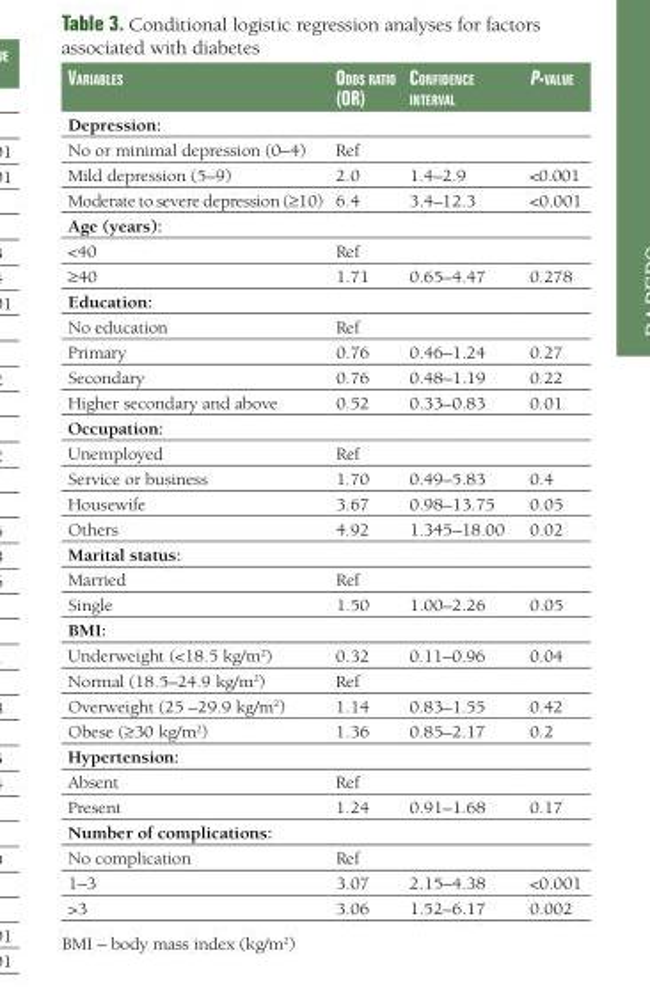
<table><thead><tr><td>Variables</td><td>odds ratio (or)</td><td>ConfidenCe interVal</td><td>P-Value</td></tr></thead><tbody><tr><td colspan="4">Depression:</td></tr><tr><td>No or minimal depression (0–4)</td><td>Ref</td><td></td><td></td></tr><tr><td>Mild depression (5–9)</td><td>2.0</td><td>1.4–2.9</td><td>&lt;0.001</td></tr><tr><td>Moderate to severe depression (≥10)</td><td>6.4</td><td>3.4–12.3</td><td>&lt;0.001</td></tr><tr><td colspan="4">Age (years):</td></tr><tr><td>&lt;40</td><td>Ref</td><td></td><td></td></tr><tr><td>≥40</td><td>1.71</td><td>0.65–4.47</td><td>0.278</td></tr><tr><td colspan="4">Education:</td></tr><tr><td>No education</td><td>Ref</td><td></td><td></td></tr><tr><td>Primary</td><td>0.76</td><td>0.46–1.24</td><td>0.27</td></tr><tr><td>Secondary</td><td>0.76</td><td>0.48–1.19</td><td>0.22</td></tr><tr><td>Higher secondary and above</td><td>0.52</td><td>0.33–0.83</td><td>0.01</td></tr><tr><td colspan="4">Occupation:</td></tr><tr><td>Unemployed</td><td>Ref</td><td></td><td></td></tr><tr><td>Service or business</td><td>1.70</td><td>0.49–5.83</td><td>0.4</td></tr><tr><td>Housewife</td><td>3.67</td><td>0.98–13.75</td><td>0.05</td></tr><tr><td>Others</td><td>4.92</td><td>1.345–18.00</td><td>0.02</td></tr><tr><td colspan="4">Marital status:</td></tr><tr><td>Married</td><td>Ref</td><td></td><td></td></tr><tr><td>Single</td><td>1.50</td><td>1.00–2.26</td><td>0.05</td></tr><tr><td colspan="4">BMI:</td></tr><tr><td>Underweight (&lt;18.5 kg/m<sup>2</sup>)</td><td>0.32</td><td>0.11–0.96</td><td>0.04</td></tr><tr><td>Normal (18.5–24.9 kg/m<sup>2</sup>)</td><td>Ref</td><td></td><td></td></tr><tr><td>Overweight (25 –29.9 kg/m<sup>2</sup>)</td><td>1.14</td><td>0.83–1.55</td><td>0.42</td></tr><tr><td>Obese (≥30 kg/m<sup>2</sup>)</td><td>1.36</td><td>0.85–2.17</td><td>0.2</td></tr><tr><td colspan="4">Hypertension:</td></tr><tr><td>Absent</td><td>Ref</td><td></td><td></td></tr><tr><td>Present</td><td>1.24</td><td>0.91–1.68</td><td>0.17</td></tr><tr><td colspan="4">Number of complications:</td></tr><tr><td>No complication</td><td>Ref</td><td></td><td></td></tr><tr><td>1–3</td><td>3.07</td><td>2.15–4.38</td><td>&lt;0.001</td></tr><tr><td>&gt;3</td><td>3.06</td><td>1.52–6.17</td><td>0.002</td></tr></tbody></table>